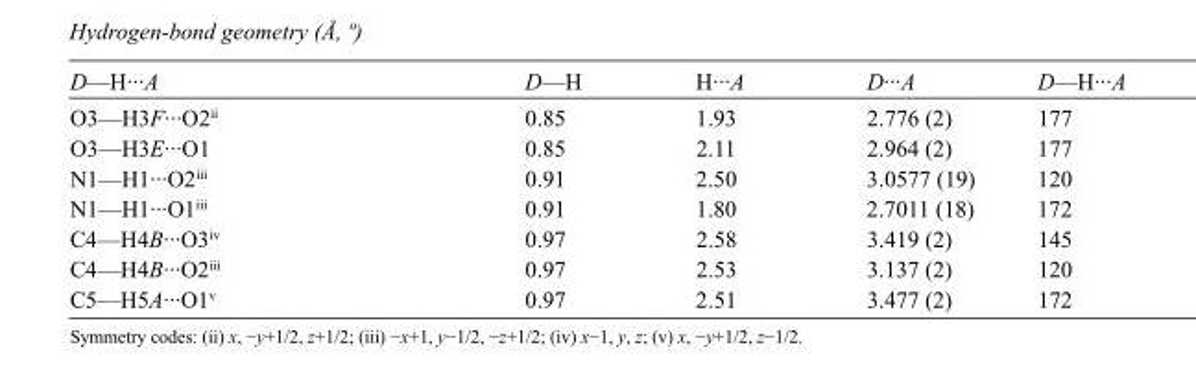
<table><tbody><tr><td>D—H···A</td><td>D—H</td><td>H···A</td><td>D···A</td><td>D—H···A</td></tr><tr><td>O3—H3F···O2<sup>ii</sup></td><td>0.85</td><td>1.93</td><td>2.776 (2)</td><td>177</td></tr><tr><td>O3—H3E···O1</td><td>0.85</td><td>2.11</td><td>2.964 (2)</td><td>177</td></tr><tr><td>N1—H1···O2<sup>iii</sup></td><td>0.91</td><td>2.50</td><td>3.0577 (19)</td><td>120</td></tr><tr><td>N1—H1···O1<sup>iii</sup></td><td>0.91</td><td>1.80</td><td>2.7011 (18)</td><td>172</td></tr><tr><td>C4—H4B···O3<sup>iv</sup></td><td>0.97</td><td>2.58</td><td>3.419 (2)</td><td>145</td></tr><tr><td>C4—H4B···O2<sup>iii</sup></td><td>0.97</td><td>2.53</td><td>3.137 (2)</td><td>120</td></tr><tr><td>C5—H5A···O1<sup>v</sup></td><td>0.97</td><td>2.51</td><td>3.477 (2)</td><td>172</td></tr></tbody></table>